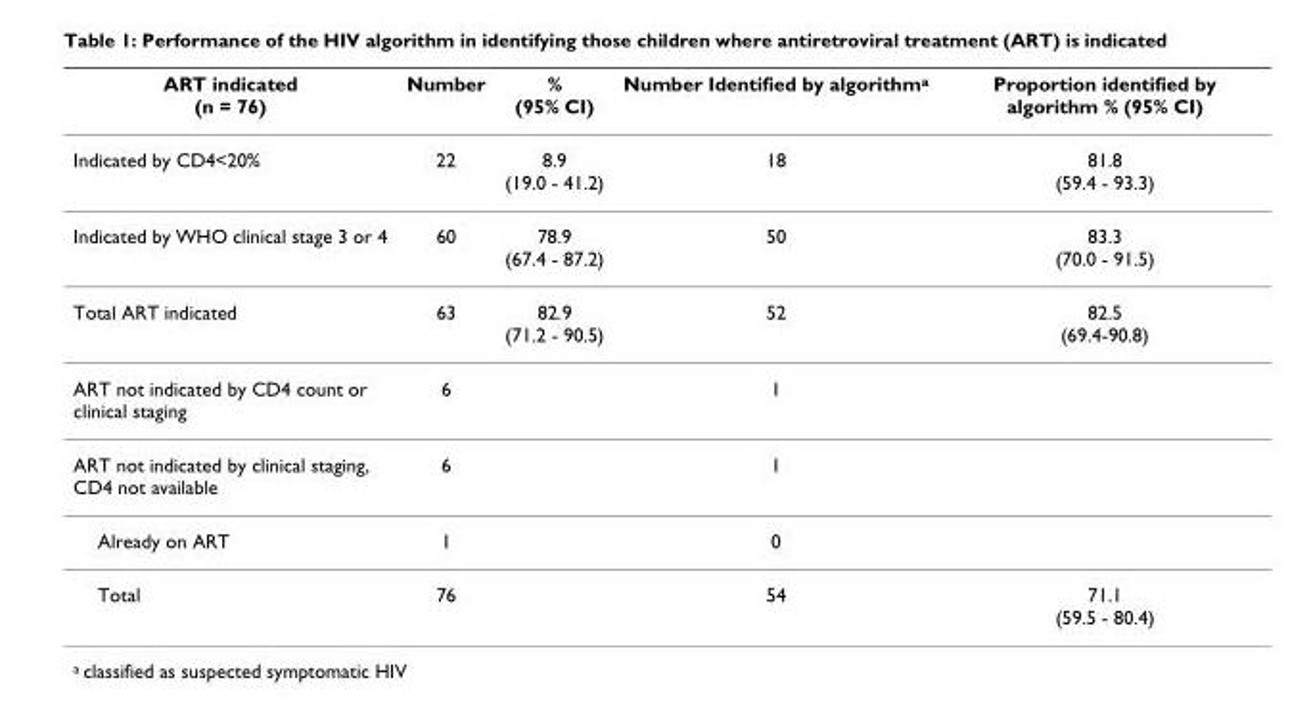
<table><thead><tr><td>ART indicated (n = 76)</td><td>Number</td><td>% (95% CI)</td><td>Number Identified by algorithm<sup>a</sup></td><td>Proportion identified by algorithm % (95% CI)</td></tr></thead><tbody><tr><td>Indicated by CD4&lt;20%</td><td>22</td><td>8.9 (19.0 - 41.2)</td><td>18</td><td>81.8 (59.4 - 93.3)</td></tr><tr><td>Indicated by WHO clinical stage 3 or 4</td><td>60</td><td>78.9 (67.4 - 87.2)</td><td>50</td><td>83.3 (70.0 - 91.5)</td></tr><tr><td>Total ART indicated</td><td>63</td><td>82.9 (71.2 - 90.5)</td><td>52</td><td>82.5 (69.4-90.8)</td></tr><tr><td>ART not indicated by CD4 count or clinical staging</td><td>6</td><td></td><td>1</td><td></td></tr><tr><td>ART not indicated by clinical staging, CD4 not available</td><td>6</td><td></td><td>1</td><td></td></tr><tr><td>Already on ART</td><td>1</td><td></td><td>0</td><td></td></tr><tr><td>Total</td><td>76</td><td></td><td>54</td><td>71.1 (59.5 - 80.4)</td></tr></tbody></table>